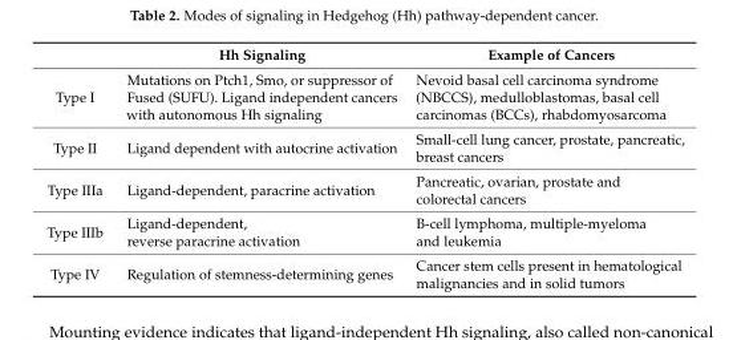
<table><thead><tr><td></td><td>Hh Signaling</td><td>Example of Cancers</td></tr></thead><tbody><tr><td>Type I</td><td>Mutations on Ptch1, Smo, or suppressor of Fused (SUFU). Ligand independent cancers with autonomous Hh signaling</td><td>Nevoid basal cell carcinoma syndrome (NBCCS), medulloblastomas, basal cell carcinomas (BCCs), rhabdomyosarcoma</td></tr><tr><td>Type II</td><td>Ligand dependent with autocrine activation</td><td>Small-cell lung cancer, prostate, pancreatic, breast cancers</td></tr><tr><td>Type IIIa</td><td>Ligand-dependent, paracrine activation</td><td>Pancreatic, ovarian, prostate and colorectal cancers</td></tr><tr><td>Type IIIb</td><td>Ligand-dependent, reverse paracrine activation</td><td>B-cell lymphoma, multiple-myeloma and leukemia</td></tr><tr><td>Type IV</td><td>Regulation of stemness-determining genes</td><td>Cancer stem cells present in hematological malignancies and in solid tumors</td></tr></tbody></table>